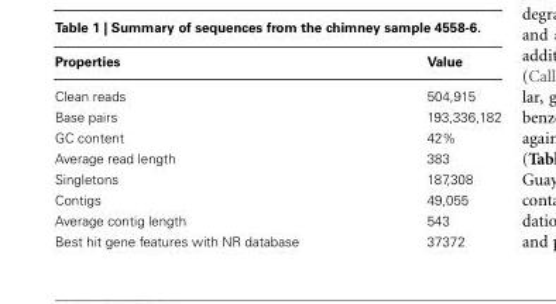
<table><thead><tr><td>Properties</td><td>Value</td></tr></thead><tbody><tr><td>Clean reads</td><td>504,915</td></tr><tr><td>Base pairs</td><td>193,336,182</td></tr><tr><td>GC content</td><td>42%</td></tr><tr><td>Average read length</td><td>383</td></tr><tr><td>Singletons</td><td>187,308</td></tr><tr><td>Contigs</td><td>49,055</td></tr><tr><td>Average contig length</td><td>543</td></tr><tr><td>Best hit gene features with NR database</td><td>37372</td></tr></tbody></table>